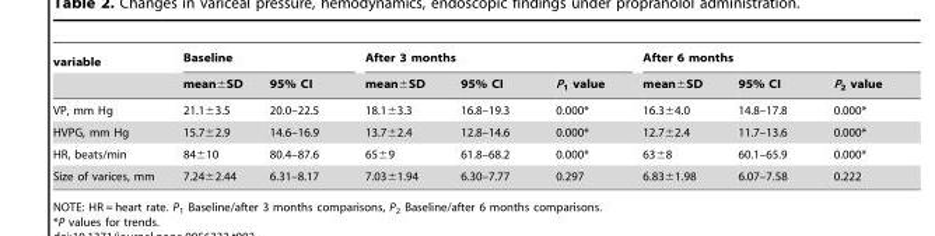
<table><thead><tr><td rowspan="2">variable</td><td colspan="2">Baseline</td><td colspan="3">After 3 months</td><td colspan="3">After 6 months</td></tr><tr><td>mean±SD</td><td>95% CI</td><td>mean±SD</td><td>95% CI</td><td>P<sub>1</sub> value</td><td>mean±SD</td><td>95% CI</td><td>P<sub>2</sub> value</td></tr></thead><tbody><tr><td>VP, mm Hg</td><td>21.1±3.5</td><td>20.0–22.5</td><td>18.1±3.3</td><td>16.8–19.3</td><td>0.000*</td><td>16.3±4.0</td><td>14.8–17.8</td><td>0.000*</td></tr><tr><td>HVPG, mm Hg</td><td>15.7±2.9</td><td>14.6–16.9</td><td>13.7±2.4</td><td>12.8–14.6</td><td>0.000*</td><td>12.7±2.4</td><td>11.7–13.6</td><td>0.000*</td></tr><tr><td>HR, beats/min</td><td>84±10</td><td>80.4–87.6</td><td>65±9</td><td>61.8–68.2</td><td>0.000*</td><td>63±8</td><td>60.1–65.9</td><td>0.000*</td></tr><tr><td>Size of varices, mm</td><td>7.24±2.44</td><td>6.31–8.17</td><td>7.03±1.94</td><td>6.30–7.77</td><td>0.297</td><td>6.83±1.98</td><td>6.07–7.58</td><td>0.222</td></tr></tbody></table>